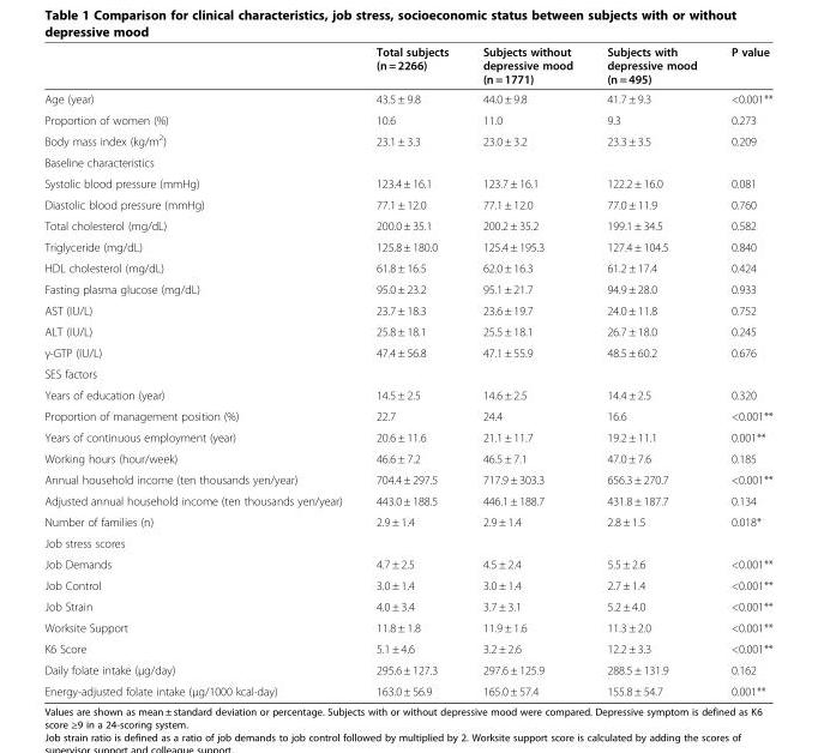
<table><thead><tr><td></td><td>Total subjects (n = 2266)</td><td>Subjects without depressive mood (n = 1771)</td><td>Subjects with depressive mood (n = 495)</td><td>P value</td></tr></thead><tbody><tr><td>Age (year)</td><td>43.5 ± 9.8</td><td>44.0 ± 9.8</td><td>41.7 ± 9.3</td><td>&lt;0.001**</td></tr><tr><td>Proportion of women (%)</td><td>10.6</td><td>11.0</td><td>9.3</td><td>0.273</td></tr><tr><td>Body mass index (kg/m<sup>2</sup>)</td><td>23.1 ± 3.3</td><td>23.0 ± 3.2</td><td>23.3 ± 3.5</td><td>0.209</td></tr><tr><td colspan="5">Baseline characteristics</td></tr><tr><td>Systolic blood pressure (mmHg)</td><td>123.4 ± 16.1</td><td>123.7 ± 16.1</td><td>122.2 ± 16.0</td><td>0.081</td></tr><tr><td>Diastolic blood pressure (mmHg)</td><td>77.1 ± 12.0</td><td>77.1 ± 12.0</td><td>77.0 ± 11.9</td><td>0.760</td></tr><tr><td>Total cholesterol (mg/dL)</td><td>200.0 ± 35.1</td><td>200.2 ± 35.2</td><td>199.1 ± 34.5</td><td>0.582</td></tr><tr><td>Triglyceride (mg/dL)</td><td>125.8 ± 180.0</td><td>125.4 ± 195.3</td><td>127.4 ± 104.5</td><td>0.840</td></tr><tr><td>HDL cholesterol (mg/dL)</td><td>61.8 ± 16.5</td><td>62.0 ± 16.3</td><td>61.2 ± 17.4</td><td>0.424</td></tr><tr><td>Fasting plasma glucose (mg/dL)</td><td>95.0 ± 23.2</td><td>95.1 ± 21.7</td><td>94.9 ± 28.0</td><td>0.933</td></tr><tr><td>AST (IU/L)</td><td>23.7 ± 18.3</td><td>23.6 ± 19.7</td><td>24.0 ± 11.8</td><td>0.752</td></tr><tr><td>ALT (IU/L)</td><td>25.8 ± 18.1</td><td>25.5 ± 18.1</td><td>26.7 ± 18.0</td><td>0.245</td></tr><tr><td>γ-GTP (IU/L)</td><td>47.4 ± 56.8</td><td>47.1 ± 55.9</td><td>48.5 ± 60.2</td><td>0.676</td></tr><tr><td colspan="5">SES factors</td></tr><tr><td>Years of education (year)</td><td>14.5 ± 2.5</td><td>14.6 ± 2.5</td><td>14.4 ± 2.5</td><td>0.320</td></tr><tr><td>Proportion of management position (%)</td><td>22.7</td><td>24.4</td><td>16.6</td><td>&lt;0.001**</td></tr><tr><td>Years of continuous employment (year)</td><td>20.6 ± 11.6</td><td>21.1 ± 11.7</td><td>19.2 ± 11.1</td><td>0.001**</td></tr><tr><td>Working hours (hour/week)</td><td>46.6 ± 7.2</td><td>46.5 ± 7.1</td><td>47.0 ± 7.6</td><td>0.185</td></tr><tr><td>Annual household income (ten thousands yen/year)</td><td>704.4 ± 297.5</td><td>717.9 ± 303.3</td><td>656.3 ± 270.7</td><td>&lt;0.001**</td></tr><tr><td>Adjusted annual household income (ten thousands yen/year)</td><td>443.0 ± 188.5</td><td>446.1 ± 188.7</td><td>431.8 ± 187.7</td><td>0.134</td></tr><tr><td>Number of families (n)</td><td>2.9 ± 1.4</td><td>2.9 ± 1.4</td><td>2.8 ± 1.5</td><td>0.018*</td></tr><tr><td colspan="5">Job stress scores</td></tr><tr><td>Job Demands</td><td>4.7 ± 2.5</td><td>4.5 ± 2.4</td><td>5.5 ± 2.6</td><td>&lt;0.001**</td></tr><tr><td>Job Control</td><td>3.0 ± 1.4</td><td>3.0 ± 1.4</td><td>2.7 ± 1.4</td><td>&lt;0.001**</td></tr><tr><td>Job Strain</td><td>4.0 ± 3.4</td><td>3.7 ± 3.1</td><td>5.2 ± 4.0</td><td>&lt;0.001**</td></tr><tr><td>Worksite Support</td><td>11.8 ± 1.8</td><td>11.9 ± 1.6</td><td>11.3 ± 2.0</td><td>&lt;0.001**</td></tr><tr><td>K6 Score</td><td>5.1 ± 4.6</td><td>3.2 ± 2.6</td><td>12.2 ± 3.3</td><td>&lt;0.001**</td></tr><tr><td>Daily folate intake (μg/day)</td><td>295.6 ± 127.3</td><td>297.6 ± 125.9</td><td>288.5 ± 131.9</td><td>0.162</td></tr><tr><td>Energy-adjusted folate intake (μg/1000 kcal·day)</td><td>163.0 ± 56.9</td><td>165.0 ± 57.4</td><td>155.8 ± 54.7</td><td>0.001**</td></tr></tbody></table>